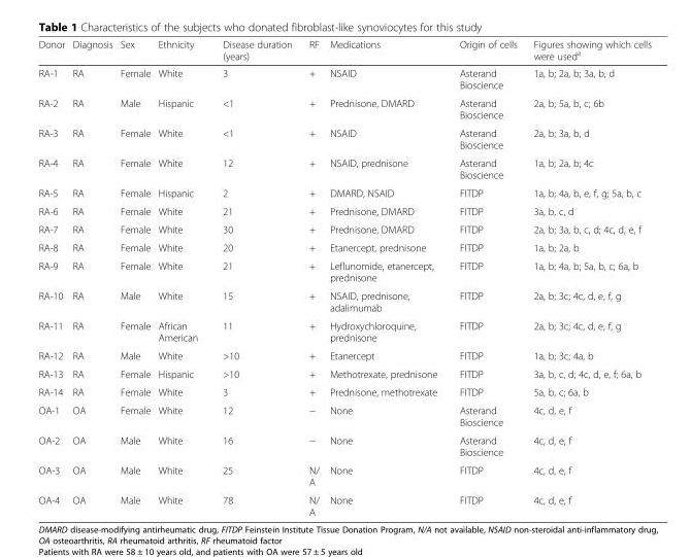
<table><thead><tr><td>Donor</td><td>Diagnosis</td><td>Sex</td><td>Ethnicity</td><td>Disease duration (years)</td><td>RF</td><td>Medications</td><td>Origin of cells</td><td>Figures showing which cells were used<sup>a</sup></td></tr></thead><tbody><tr><td>RA-1</td><td>RA</td><td>Female</td><td>White</td><td>3</td><td>+</td><td>NSAID</td><td>Asterand Bioscience</td><td>1a, b; 2a, b; 3a, b, d</td></tr><tr><td>RA-2</td><td>RA</td><td>Male</td><td>Hispanic</td><td>&lt;1</td><td>+</td><td>Prednisone, DMARD</td><td>Asterand Bioscience</td><td>2a, b; 5a, b, c; 6b</td></tr><tr><td>RA-3</td><td>RA</td><td>Female</td><td>White</td><td>&lt;1</td><td>+</td><td>NSAID</td><td>Asterand Bioscience</td><td>2a, b; 3a, b, d</td></tr><tr><td>RA-4</td><td>RA</td><td>Female</td><td>White</td><td>12</td><td>+</td><td>NSAID, prednisone</td><td>Asterand Bioscience</td><td>1a, b; 2a, b; 4c</td></tr><tr><td>RA-5</td><td>RA</td><td>Female</td><td>Hispanic</td><td>2</td><td>+</td><td>DMARD, NSAID</td><td>FITDP</td><td>1a, b; 4a, b, e, f, g; 5a, b, c</td></tr><tr><td>RA-6</td><td>RA</td><td>Female</td><td>White</td><td>21</td><td>+</td><td>Prednisone, DMARD</td><td>FITDP</td><td>3a, b, c, d</td></tr><tr><td>RA-7</td><td>RA</td><td>Female</td><td>White</td><td>30</td><td>+</td><td>Prednisone, DMARD</td><td>FITDP</td><td>2a, b; 3a, b, c, d; 4c, d, e, f</td></tr><tr><td>RA-8</td><td>RA</td><td>Female</td><td>White</td><td>20</td><td>+</td><td>Etanercept, prednisone</td><td>FITDP</td><td>1a, b; 2a, b</td></tr><tr><td>RA-9</td><td>RA</td><td>Female</td><td>White</td><td>21</td><td>+</td><td>Leflunomide, etanercept, prednisone</td><td>FITDP</td><td>1a, b; 4a, b; 5a, b, c; 6a, b</td></tr><tr><td>RA-10</td><td>RA</td><td>Male</td><td>White</td><td>15</td><td>+</td><td>NSAID, prednisone, adalimumab</td><td>FITDP</td><td>2a, b; 3c; 4c, d, e, f, g</td></tr><tr><td>RA-11</td><td>RA</td><td>Female</td><td>African American</td><td>11</td><td>+</td><td>Hydroxychloroquine, prednisone</td><td>FITDP</td><td>2a, b; 3c; 4c, d, e, f, g</td></tr><tr><td>RA-12</td><td>RA</td><td>Male</td><td>White</td><td>&gt;10</td><td>+</td><td>Etanercept</td><td>FITDP</td><td>1a, b; 3c; 4a, b</td></tr><tr><td>RA-13</td><td>RA</td><td>Female</td><td>Hispanic</td><td>&gt;10</td><td>+</td><td>Methotrexate, prednisone</td><td>FITDP</td><td>3a, b, c, d; 4c, d, e, f; 6a, b</td></tr><tr><td>RA-14</td><td>RA</td><td>Female</td><td>White</td><td>3</td><td>+</td><td>Prednisone, methotrexate</td><td>FITDP</td><td>5a, b, c; 6a, b</td></tr><tr><td>OA-1</td><td>OA</td><td>Female</td><td>White</td><td>12</td><td>−</td><td>None</td><td>Asterand Bioscience</td><td>4c, d, e, f</td></tr><tr><td>OA-2</td><td>OA</td><td>Male</td><td>White</td><td>16</td><td>−</td><td>None</td><td>Asterand Bioscience</td><td>4c, d, e, f</td></tr><tr><td>OA-3</td><td>OA</td><td>Male</td><td>White</td><td>25</td><td>N/ A</td><td>None</td><td>FITDP</td><td>4c, d, e, f</td></tr><tr><td>OA-4</td><td>OA</td><td>Male</td><td>White</td><td>78</td><td>N/ A</td><td>None</td><td>FITDP</td><td>4c, d, e, f</td></tr></tbody></table>